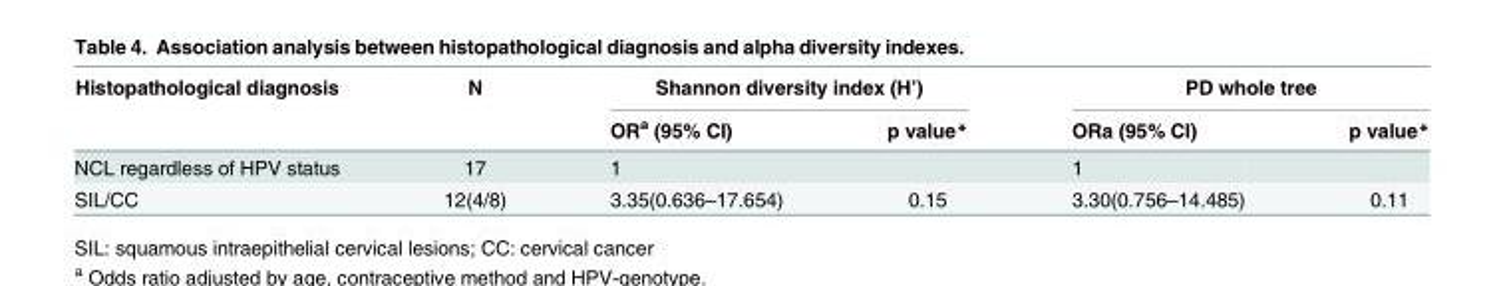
<table><thead><tr><td rowspan="2">Histopathological diagnosis</td><td rowspan="2">N</td><td colspan="2">Shannon diversity index (H’)</td><td colspan="2">PD whole tree</td></tr><tr><td>OR<sup>a</sup> (95% CI)</td><td>p value*</td><td>ORa (95% CI)</td><td>p value*</td></tr></thead><tbody><tr><td>NCL regardless of HPV status</td><td>17</td><td>1</td><td></td><td>1</td><td></td></tr><tr><td>SIL/CC</td><td>12(4/8)</td><td>3.35(0.636–17.654)</td><td>0.15</td><td>3.30(0.756–14.485)</td><td>0.11</td></tr></tbody></table>